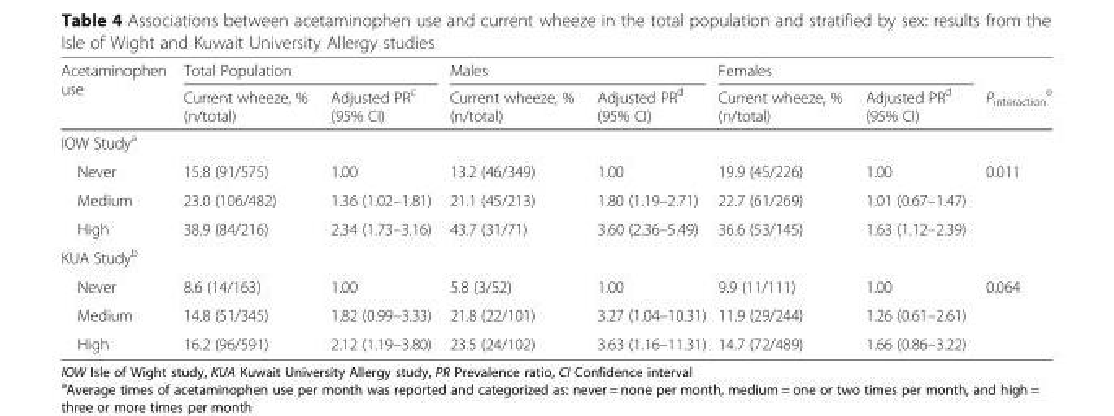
<table><thead><tr><td rowspan="2">Acetaminophen use</td><td colspan="2">Total Population</td><td colspan="2">Males</td><td colspan="2">Females</td><td rowspan="2">P<sub>interaction</sub> <sup>e</sup></td></tr><tr><td>Current wheeze, % (n/total)</td><td>Adjusted PR<sup>c</sup> (95% CI)</td><td>Current wheeze, % (n/total)</td><td>Adjusted PR<sup>d</sup> (95% CI)</td><td>Current wheeze, % (n/total)</td><td>Adjusted PR<sup>d</sup> (95% CI)</td></tr></thead><tbody><tr><td colspan="8">IOW Study<sup>a</sup></td></tr><tr><td>Never</td><td>15.8 (91/575)</td><td>1.00</td><td>13.2 (46/349)</td><td>1.00</td><td>19.9 (45/226)</td><td>1.00</td><td>0.011</td></tr><tr><td>Medium</td><td>23.0 (106/482)</td><td>1.36 (1.02–1.81)</td><td>21.1 (45/213)</td><td>1.80 (1.19–2.71)</td><td>22.7 (61/269)</td><td>1.01 (0.67–1.47)</td><td></td></tr><tr><td>High</td><td>38.9 (84/216)</td><td>2.34 (1.73–3.16)</td><td>43.7 (31/71)</td><td>3.60 (2.36–5.49)</td><td>36.6 (53/145)</td><td>1.63 (1.12–2.39)</td><td></td></tr><tr><td colspan="8">KUA Study<sup>b</sup></td></tr><tr><td>Never</td><td>8.6 (14/163)</td><td>1.00</td><td>5.8 (3/52)</td><td>1.00</td><td>9.9 (11/111)</td><td>1.00</td><td>0.064</td></tr><tr><td>Medium</td><td>14.8 (51/345)</td><td>1.82 (0.99–3.33)</td><td>21.8 (22/101)</td><td>3.27 (1.04–10.31)</td><td>11.9 (29/244)</td><td>1.26 (0.61–2.61)</td><td></td></tr><tr><td>High</td><td>16.2 (96/591)</td><td>2.12 (1.19–3.80)</td><td>23.5 (24/102)</td><td>3.63 (1.16–11.31)</td><td>14.7 (72/489)</td><td>1.66 (0.86–3.22)</td><td></td></tr></tbody></table>